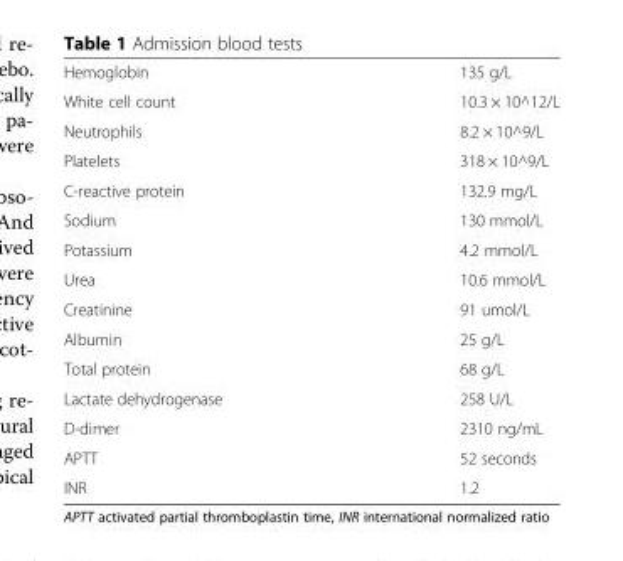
<table><tbody><tr><td>Hemoglobin</td><td>135 g/L</td></tr><tr><td>White cell count</td><td>10.3 × 10^12/L</td></tr><tr><td>Neutrophils</td><td>8.2 × 10^9/L</td></tr><tr><td>Platelets</td><td>318 × 10^9/L</td></tr><tr><td>C-reactive protein</td><td>132.9 mg/L</td></tr><tr><td>Sodium</td><td>130 mmol/L</td></tr><tr><td>Potassium</td><td>4.2 mmol/L</td></tr><tr><td>Urea</td><td>10.6 mmol/L</td></tr><tr><td>Creatinine</td><td>91 umol/L</td></tr><tr><td>Albumin</td><td>25 g/L</td></tr><tr><td>Total protein</td><td>68 g/L</td></tr><tr><td>Lactate dehydrogenase</td><td>258 U/L</td></tr><tr><td>D-dimer</td><td>2310 ng/mL</td></tr><tr><td>APTT</td><td>52 seconds</td></tr><tr><td>INR</td><td>1.2</td></tr></tbody></table>